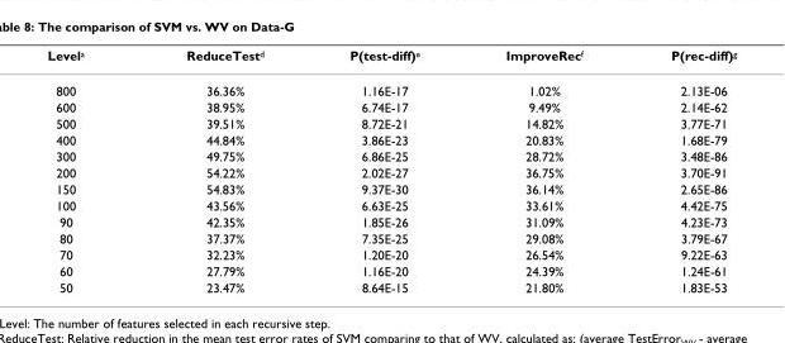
<table><thead><tr><td>Levela</td><td>ReduceTestd</td><td>P(test-diff)e</td><td>ImproveRecf</td><td>P(rec-diff)g</td></tr></thead><tbody><tr><td>800</td><td>36.36%</td><td>1.16E-17</td><td>1.02%</td><td>2.13E-06</td></tr><tr><td>600</td><td>38.95%</td><td>6.74E-17</td><td>9.49%</td><td>2.14E-62</td></tr><tr><td>500</td><td>39.51%</td><td>8.72E-21</td><td>14.82%</td><td>3.77E-71</td></tr><tr><td>400</td><td>44.84%</td><td>3.86E-23</td><td>20.83%</td><td>1.68E-79</td></tr><tr><td>300</td><td>49.75%</td><td>6.86E-25</td><td>28.72%</td><td>3.48E-86</td></tr><tr><td>200</td><td>54.22%</td><td>2.02E-27</td><td>36.75%</td><td>3.70E-91</td></tr><tr><td>150</td><td>54.83%</td><td>9.37E-30</td><td>36.14%</td><td>2.65E-86</td></tr><tr><td>100</td><td>43.56%</td><td>6.63E-25</td><td>33.61%</td><td>4.42E-75</td></tr><tr><td>90</td><td>42.35%</td><td>1.85E-26</td><td>31.09%</td><td>4.23E-73</td></tr><tr><td>80</td><td>37.37%</td><td>7.35E-25</td><td>29.08%</td><td>3.79E-67</td></tr><tr><td>70</td><td>32.23%</td><td>1.20E-20</td><td>26.54%</td><td>9.22E-63</td></tr><tr><td>60</td><td>27.79%</td><td>1.16E-20</td><td>24.39%</td><td>1.24E-61</td></tr><tr><td>50</td><td>23.47%</td><td>8.64E-15</td><td>21.80%</td><td>1.83E-53</td></tr></tbody></table>